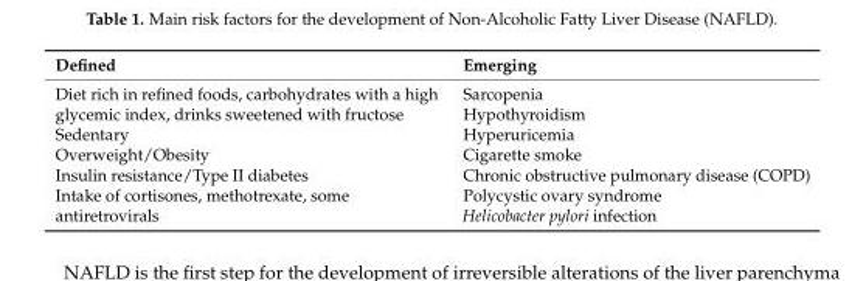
<table><thead><tr><td>Defined</td><td>Emerging</td></tr></thead><tbody><tr><td>Diet rich in refined foods, carbohydrates with a high glycemic index, drinks sweetened with fructose Sedentary Overweight/Obesity Insulin resistance/Type II diabetes Intake of cortisones, methotrexate, some antiretrovirals</td><td>Sarcopenia Hypothyroidism Hyperuricemia Cigarette smoke Chronic obstructive pulmonary disease (COPD) Polycystic ovary syndrome Helicobacter pylori infection</td></tr></tbody></table>